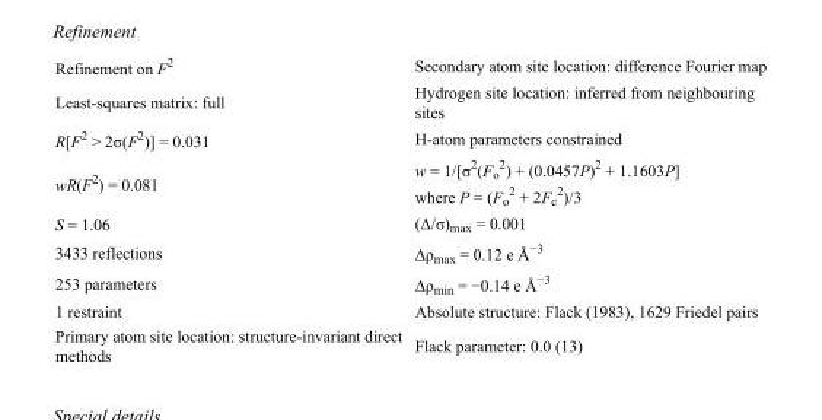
<table><tbody><tr><td>Refinement on F<sup>2</sup></td><td>Secondary atom site location: difference Fourier map</td></tr><tr><td>Least-squares matrix: full</td><td>Hydrogen site location: inferred from neighbouring sites</td></tr><tr><td>R[F<sup>2</sup> &gt; 2σ(F<sup>2</sup>)] = 0.031</td><td>H-atom parameters constrained</td></tr><tr><td>wR(F<sup>2</sup>) = 0.081</td><td>w = 1/[σ<sup>2</sup>(F<sub>o</sub> <sup>2</sup>) + (0.0457P)<sup>2</sup> + 1.1603P] where P = (F<sub>o</sub> <sup>2</sup> + 2F<sub>c</sub> <sup>2</sup>)/3</td></tr><tr><td>S = 1.06</td><td>(Δ/σ)<sub>max</sub> = 0.001</td></tr><tr><td>3433 reflections</td><td>Δρ<sub>max</sub> = 0.12 e Å<sup>−3</sup></td></tr><tr><td>253 parameters</td><td>Δρ<sub>min</sub> = −0.14 e Å<sup>−3</sup></td></tr><tr><td>1 restraint</td><td>Absolute structure: Flack (1983), 1629 Friedel pairs</td></tr><tr><td>Primary atom site location: structure-invariant direct methods</td><td>Flack parameter: 0.0 (13)</td></tr></tbody></table>